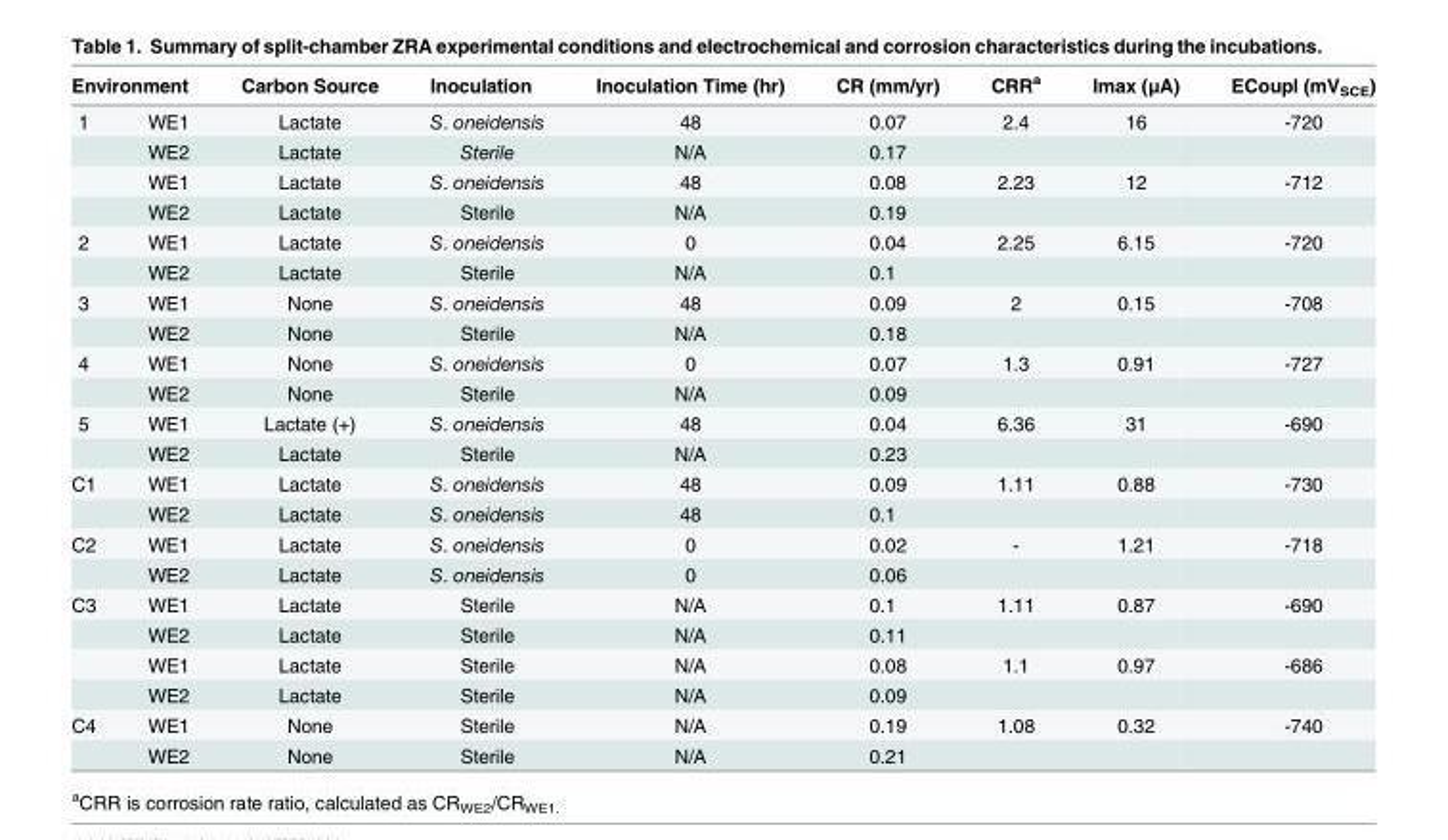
<table><thead><tr><td colspan="2">Environment</td><td rowspan="2">Carbon Source Lactate</td><td rowspan="2">Inoculation S. oneidensis</td><td rowspan="2">Inoculation Time (hr) 48</td><td rowspan="2">CR (mm/yr) 0.07</td><td rowspan="2">CRR<sup>a</sup> 2.4</td><td rowspan="2">Imax (μA) 16</td><td rowspan="2">ECoupl (mV<sub>SCE</sub>) -720</td></tr><tr><td>1</td><td>WE1</td></tr></thead><tbody><tr><td></td><td>WE2</td><td>Lactate</td><td>Sterile</td><td>N/A</td><td>0.17</td><td></td><td></td><td></td></tr><tr><td></td><td>WE1</td><td>Lactate</td><td>S. oneidensis</td><td>48</td><td>0.08</td><td>2.23</td><td>12</td><td>-712</td></tr><tr><td></td><td>WE2</td><td>Lactate</td><td>Sterile</td><td>N/A</td><td>0.19</td><td></td><td></td><td></td></tr><tr><td rowspan="2">2</td><td>WE1</td><td>Lactate</td><td>S. oneidensis</td><td>0</td><td>0.04</td><td>2.25</td><td>6.15</td><td>-720</td></tr><tr><td>WE2</td><td>Lactate</td><td>Sterile</td><td>N/A</td><td>0.1</td><td></td><td></td><td></td></tr><tr><td rowspan="2">3</td><td>WE1</td><td>None</td><td>S. oneidensis</td><td>48</td><td>0.09</td><td>2</td><td>0.15</td><td>-708</td></tr><tr><td>WE2</td><td>None</td><td>Sterile</td><td>N/A</td><td>0.18</td><td></td><td></td><td></td></tr><tr><td rowspan="2">4</td><td>WE1</td><td>None</td><td>S. oneidensis</td><td>0</td><td>0.07</td><td>1.3</td><td>0.91</td><td>-727</td></tr><tr><td>WE2</td><td>None</td><td>Sterile</td><td>N/A</td><td>0.09</td><td></td><td></td><td></td></tr><tr><td rowspan="2">5</td><td>WE1</td><td>Lactate (+)</td><td>S. oneidensis</td><td>48</td><td>0.04</td><td>6.36</td><td>31</td><td>-690</td></tr><tr><td>WE2</td><td>Lactate</td><td>Sterile</td><td>N/A</td><td>0.23</td><td></td><td></td><td></td></tr><tr><td rowspan="2">C1</td><td>WE1</td><td>Lactate</td><td>S. oneidensis</td><td>48</td><td>0.09</td><td>1.11</td><td>0.88</td><td>-730</td></tr><tr><td>WE2</td><td>Lactate</td><td>S. oneidensis</td><td>48</td><td>0.1</td><td></td><td></td><td></td></tr><tr><td rowspan="2">C2</td><td>WE1</td><td>Lactate</td><td>S. oneidensis</td><td>0</td><td>0.02</td><td>-</td><td>1.21</td><td>-718</td></tr><tr><td>WE2</td><td>Lactate</td><td>S. oneidensis</td><td>0</td><td>0.06</td><td></td><td></td><td></td></tr><tr><td rowspan="4">C3</td><td>WE1</td><td>Lactate</td><td>Sterile</td><td>N/A</td><td>0.1</td><td>1.11</td><td>0.87</td><td>-690</td></tr><tr><td>WE2</td><td>Lactate</td><td>Sterile</td><td>N/A</td><td>0.11</td><td></td><td></td><td></td></tr><tr><td>WE1</td><td>Lactate</td><td>Sterile</td><td>N/A</td><td>0.08</td><td>1.1</td><td>0.97</td><td>-686</td></tr><tr><td>WE2</td><td>Lactate</td><td>Sterile</td><td>N/A</td><td>0.09</td><td></td><td></td><td></td></tr><tr><td rowspan="2">C4</td><td>WE1</td><td>None</td><td>Sterile</td><td>N/A</td><td>0.19</td><td>1.08</td><td>0.32</td><td>-740</td></tr><tr><td>WE2</td><td>None</td><td>Sterile</td><td>N/A</td><td>0.21</td><td></td><td></td><td></td></tr></tbody></table>